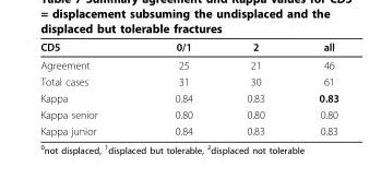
<table><thead><tr><td>CD5</td><td>0/1</td><td>2</td><td>all</td></tr></thead><tbody><tr><td>Agreement</td><td>25</td><td>21</td><td>46</td></tr><tr><td>Total cases</td><td>31</td><td>30</td><td>61</td></tr><tr><td>Kappa</td><td>0.84</td><td>0.83</td><td>0.83</td></tr><tr><td>Kappa senior</td><td>0.80</td><td>0.80</td><td>0.80</td></tr><tr><td>Kappa junior</td><td>0.84</td><td>0.83</td><td>0.83</td></tr></tbody></table>